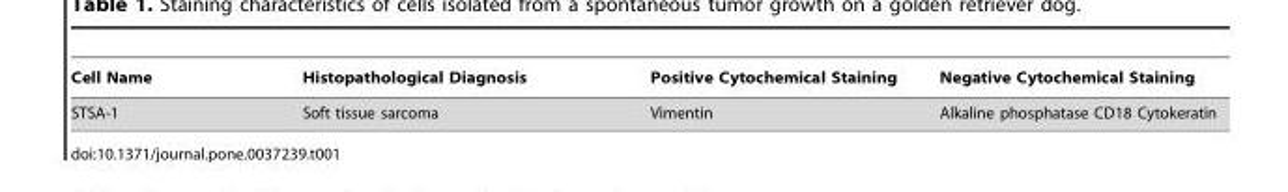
<table><thead><tr><td>Cell Name</td><td>Histopathological Diagnosis</td><td>Positive Cytochemical Staining</td><td>Negative Cytochemical Staining</td></tr></thead><tbody><tr><td>STSA-1</td><td>Soft tissue sarcoma</td><td>Vimentin</td><td>Alkaline phosphatase CD18 Cytokeratin</td></tr></tbody></table>